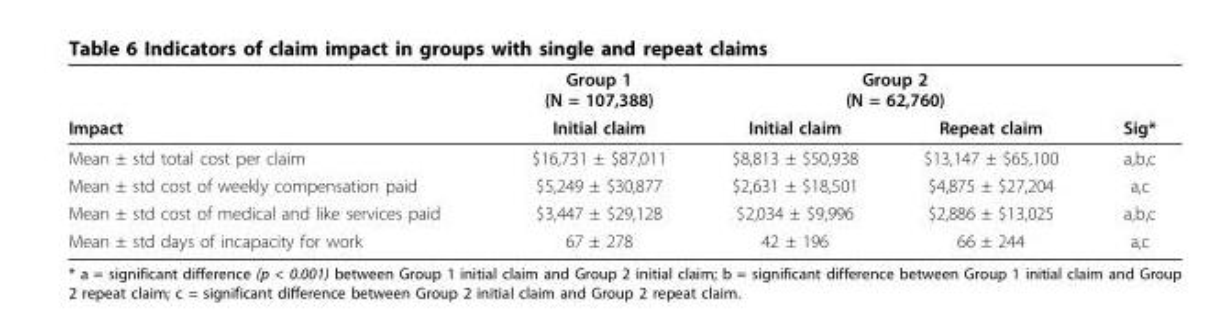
<table><thead><tr><td rowspan="2">Impact</td><td rowspan="2">Group 1 (N = 107,388) Initial claim</td><td colspan="2">Group 2 (N = 62,760)</td><td rowspan="2">Sig*</td></tr><tr><td>Initial claim</td><td>Repeat claim</td></tr></thead><tbody><tr><td>Mean ± std total cost per claim</td><td>$16,731 ± $87,011</td><td>$8,813 ± $50,938</td><td>$13,147 ± $65,100</td><td>a,b,c</td></tr><tr><td>Mean ± std cost of weekly compensation paid</td><td>$5,249 ± $30,877</td><td>$2,631 ± $18,501</td><td>$4,875 ± $27,204</td><td>a,c</td></tr><tr><td>Mean ± std cost of medical and like services paid</td><td>$3,447 ± $29,128</td><td>$2,034 ± $9,996</td><td>$2,886 ± $13,025</td><td>a,b,c</td></tr><tr><td>Mean ± std days of incapacity for work</td><td>67 ± 278</td><td>42 ± 196</td><td>66 ± 244</td><td>a,c</td></tr></tbody></table>